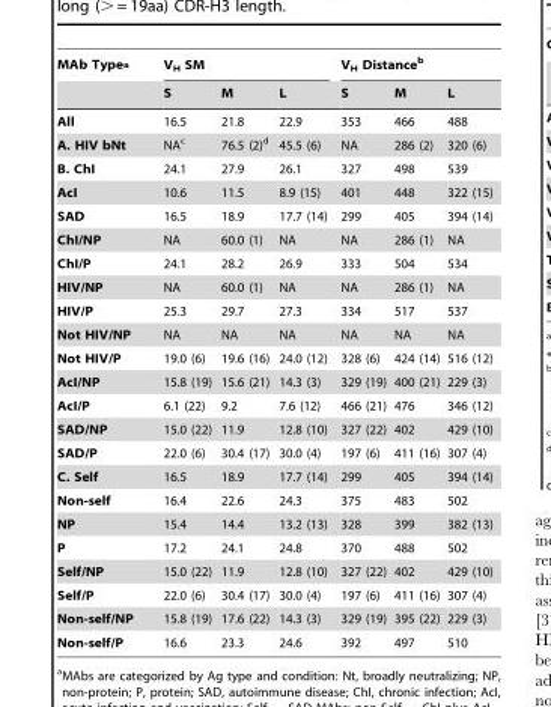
<table><thead><tr><td rowspan="2">MAb Type<sup>a</sup></td><td colspan="3">V<sub>H</sub> SM</td><td colspan="3">V<sub>H</sub> Distance<sup>b</sup></td></tr><tr><td>S</td><td>M</td><td>L</td><td>S</td><td>M</td><td>L</td></tr></thead><tbody><tr><td>All</td><td>16.5</td><td>21.8</td><td>22.9</td><td>353</td><td>466</td><td>488</td></tr><tr><td>A. HIV bNt</td><td>NA<sup>c</sup></td><td>76.5 (2)<sup>d</sup></td><td>45.5 (6)</td><td>NA</td><td>286 (2)</td><td>320 (6)</td></tr><tr><td>B. ChI</td><td>24.1</td><td>27.9</td><td>26.1</td><td>327</td><td>498</td><td>539</td></tr><tr><td>AcI</td><td>10.6</td><td>11.5</td><td>8.9 (15)</td><td>401</td><td>448</td><td>322 (15)</td></tr><tr><td>SAD</td><td>16.5</td><td>18.9</td><td>17.7 (14)</td><td>299</td><td>405</td><td>394 (14)</td></tr><tr><td>ChI/NP</td><td>NA</td><td>60.0 (1)</td><td>NA</td><td>NA</td><td>286 (1)</td><td>NA</td></tr><tr><td>ChI/P</td><td>24.1</td><td>28.2</td><td>26.9</td><td>333</td><td>504</td><td>534</td></tr><tr><td>HIV/NP</td><td>NA</td><td>60.0 (1)</td><td>NA</td><td>NA</td><td>286 (1)</td><td>NA</td></tr><tr><td>HIV/P</td><td>25.3</td><td>29.7</td><td>27.3</td><td>334</td><td>517</td><td>537</td></tr><tr><td>Not HIV/NP</td><td>NA</td><td>NA</td><td>NA</td><td>NA</td><td>NA</td><td>NA</td></tr><tr><td>Not HIV/P</td><td>19.0 (6)</td><td>19.6 (16)</td><td>24.0 (12)</td><td>328 (6)</td><td>424 (14)</td><td>516 (12)</td></tr><tr><td>AcI/NP</td><td>15.8 (19)</td><td>15.6 (21)</td><td>14.3 (3)</td><td>329 (19)</td><td>400 (21)</td><td>229 (3)</td></tr><tr><td>AcI/P</td><td>6.1 (22)</td><td>9.2</td><td>7.6 (12)</td><td>466 (21)</td><td>476</td><td>346 (12)</td></tr><tr><td>SAD/NP</td><td>15.0 (22)</td><td>11.9</td><td>12.8 (10)</td><td>327 (22)</td><td>402</td><td>429 (10)</td></tr><tr><td>SAD/P</td><td>22.0 (6)</td><td>30.4 (17)</td><td>30.0 (4)</td><td>197 (6)</td><td>411 (16)</td><td>307 (4)</td></tr><tr><td>C. Self</td><td>16.5</td><td>18.9</td><td>17.7 (14)</td><td>299</td><td>405</td><td>394 (14)</td></tr><tr><td>Non-self</td><td>16.4</td><td>22.6</td><td>24.3</td><td>375</td><td>483</td><td>502</td></tr><tr><td>NP</td><td>15.4</td><td>14.4</td><td>13.2 (13)</td><td>328</td><td>399</td><td>382 (13)</td></tr><tr><td>P</td><td>17.2</td><td>24.1</td><td>24.8</td><td>370</td><td>488</td><td>502</td></tr><tr><td>Self/NP</td><td>15.0 (22)</td><td>11.9</td><td>12.8 (10)</td><td>327 (22)</td><td>402</td><td>429 (10)</td></tr><tr><td>Self/P</td><td>22.0 (6)</td><td>30.4 (17)</td><td>30.0 (4)</td><td>197 (6)</td><td>411 (16)</td><td>307 (4)</td></tr><tr><td>Non-self/NP</td><td>15.8 (19)</td><td>17.6 (22)</td><td>14.3 (3)</td><td>329 (19)</td><td>395 (22)</td><td>229 (3)</td></tr><tr><td>Non-self/P</td><td>16.6</td><td>23.3</td><td>24.6</td><td>392</td><td>497</td><td>510</td></tr></tbody></table>